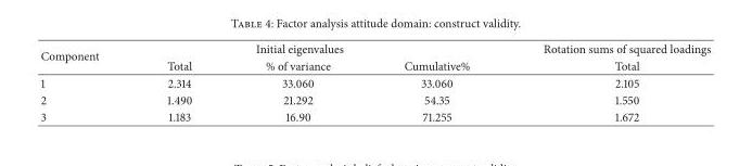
<table><thead><tr><td rowspan="2">Component</td><td colspan="3">Initial eigenvalues</td><td rowspan="2">Rotation sums of squared loadings Total</td></tr><tr><td>Total</td><td>% of variance</td><td>Cumulative%</td></tr></thead><tbody><tr><td>1</td><td>2.314</td><td>33.060</td><td>33.060</td><td>2.105</td></tr><tr><td>2</td><td>1.490</td><td>21.292</td><td>54.35</td><td>1.550</td></tr><tr><td>3</td><td>1.183</td><td>16.90</td><td>71.255</td><td>1.672</td></tr></tbody></table>